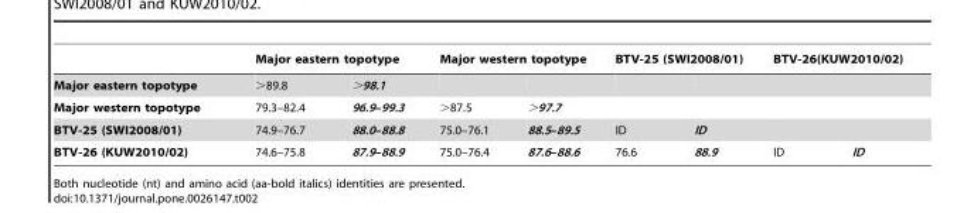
<table><thead><tr><td rowspan="2">Major eastern topotype</td><td colspan="2">Major eastern topotype</td><td colspan="2">Major western topotype</td><td colspan="2">BTV-25 (SWI2008/01)</td><td colspan="2">BTV-26(KUW2010/02)</td></tr><tr><td>&gt;89.8</td><td>&gt;98.1</td><td></td><td></td><td></td><td></td><td></td><td></td></tr></thead><tbody><tr><td>Major western topotype</td><td>79.3–82.4</td><td>96.9–99.3</td><td>&gt;87.5</td><td>&gt;97.7</td><td></td><td></td><td></td><td></td></tr><tr><td>BTV-25 (SWI2008/01)</td><td>74.9–76.7</td><td>88.0–88.8</td><td>75.0–76.1</td><td>88.5–89.5</td><td>ID</td><td>ID</td><td></td><td></td></tr><tr><td>BTV-26 (KUW2010/02)</td><td>74.6–75.8</td><td>87.9–88.9</td><td>75.0–76.4</td><td>87.6–88.6</td><td>76.6</td><td>88.9</td><td>ID</td><td>ID</td></tr></tbody></table>